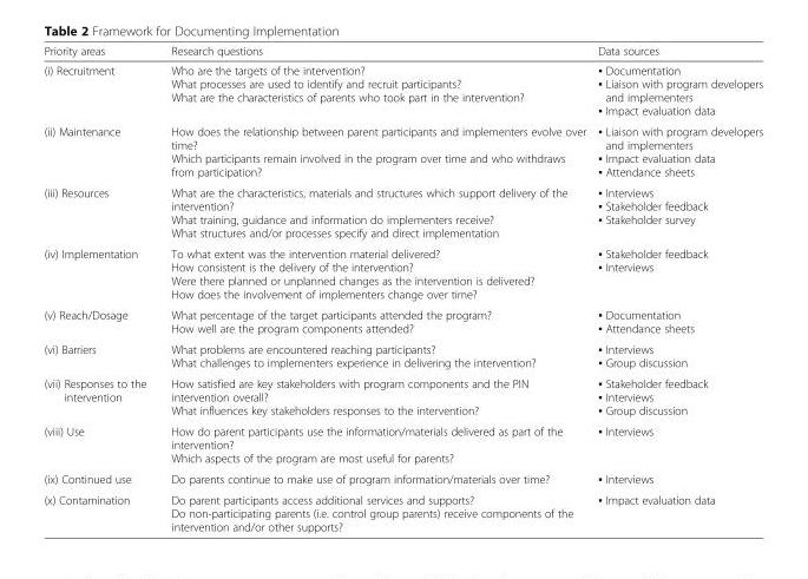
<table><thead><tr><td>Priority areas</td><td>Research questions</td><td>Data sources</td></tr></thead><tbody><tr><td>(i) Recruitment</td><td>Who are the targets of the intervention? What processes are used to identify and recruit participants? What are the characteristics of parents who took part in the intervention?</td><td>▪ Documentation ▪ Liaison with program developers and implementers ▪ Impact evaluation data</td></tr><tr><td>(ii) Maintenance</td><td>How does the relationship between parent participants and implementers evolve over time? Which participants remain involved in the program over time and who withdraws from participation?</td><td>▪ Liaison with program developers and implementers ▪ Impact evaluation data ▪ Attendance sheets</td></tr><tr><td>(iii) Resources</td><td>What are the characteristics, materials and structures which support delivery of the intervention? What training, guidance and information do implementers receive? What structures and/or processes specify and direct implementation</td><td>▪ Interviews ▪ Stakeholder feedback ▪ Stakeholder survey</td></tr><tr><td>(iv) Implementation</td><td>To what extent was the intervention material delivered? How consistent is the delivery of the intervention? Were there planned or unplanned changes as the intervention is delivered? How does the involvement of implementers change over time?</td><td>▪ Stakeholder feedback ▪ Interviews</td></tr><tr><td>(v) Reach/Dosage</td><td>What percentage of the target participants attended the program? How well are the program components attended?</td><td>▪ Documentation ▪ Attendance sheets</td></tr><tr><td>(vi) Barriers</td><td>What problems are encountered reaching participants? What challenges to implementers experience in delivering the intervention?</td><td>▪ Interviews ▪ Group discussion</td></tr><tr><td>(vii) Responses to the intervention</td><td>How satisfied are key stakeholders with program components and the PIN intervention overall? What influences key stakeholders responses to the intervention?</td><td>▪ Stakeholder feedback ▪ Interviews ▪ Group discussion</td></tr><tr><td>(viii) Use</td><td>How do parent participants use the information/materials delivered as part of the intervention? Which aspects of the program are most useful for parents?</td><td>▪ Interviews</td></tr><tr><td>(ix) Continued use</td><td>Do parents continue to make use of program information/materials over time?</td><td>▪ Interviews</td></tr><tr><td>(x) Contamination</td><td>Do parent participants access additional services and supports? Do non-participating parents (i.e. control group parents) receive components of the intervention and/or other supports?</td><td>▪ Impact evaluation data</td></tr></tbody></table>